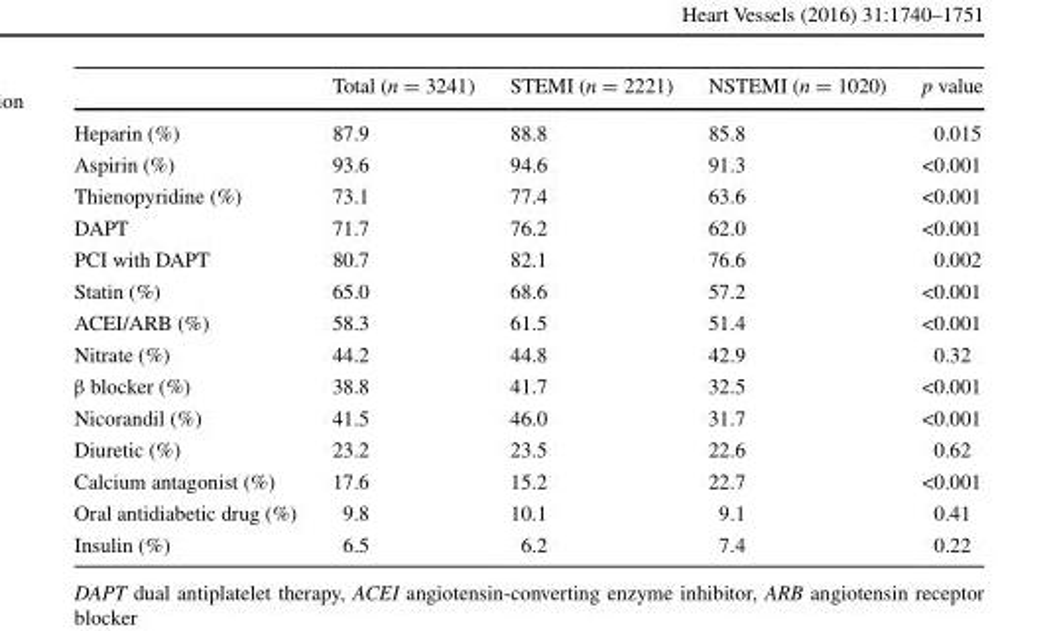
<table><thead><tr><td></td><td>Total (n = 3241)</td><td>STEMI (n = 2221)</td><td>NSTEMI (n = 1020)</td><td>p value</td></tr></thead><tbody><tr><td>Heparin (%)</td><td>87.9</td><td>88.8</td><td>85.8</td><td>0.015</td></tr><tr><td>Aspirin (%)</td><td>93.6</td><td>94.6</td><td>91.3</td><td>&lt;0.001</td></tr><tr><td>Thienopyridine (%)</td><td>73.1</td><td>77.4</td><td>63.6</td><td>&lt;0.001</td></tr><tr><td>DAPT</td><td>71.7</td><td>76.2</td><td>62.0</td><td>&lt;0.001</td></tr><tr><td>PCI with DAPT</td><td>80.7</td><td>82.1</td><td>76.6</td><td>0.002</td></tr><tr><td>Statin (%)</td><td>65.0</td><td>68.6</td><td>57.2</td><td>&lt;0.001</td></tr><tr><td>ACEI/ARB (%)</td><td>58.3</td><td>61.5</td><td>51.4</td><td>&lt;0.001</td></tr><tr><td>Nitrate (%)</td><td>44.2</td><td>44.8</td><td>42.9</td><td>0.32</td></tr><tr><td>β blocker (%)</td><td>38.8</td><td>41.7</td><td>32.5</td><td>&lt;0.001</td></tr><tr><td>Nicorandil (%)</td><td>41.5</td><td>46.0</td><td>31.7</td><td>&lt;0.001</td></tr><tr><td>Diuretic (%)</td><td>23.2</td><td>23.5</td><td>22.6</td><td>0.62</td></tr><tr><td>Calcium antagonist (%)</td><td>17.6</td><td>15.2</td><td>22.7</td><td>&lt;0.001</td></tr><tr><td>Oral antidiabetic drug (%)</td><td>9.8</td><td>10.1</td><td>9.1</td><td>0.41</td></tr><tr><td>Insulin (%)</td><td>6.5</td><td>6.2</td><td>7.4</td><td>0.22</td></tr></tbody></table>